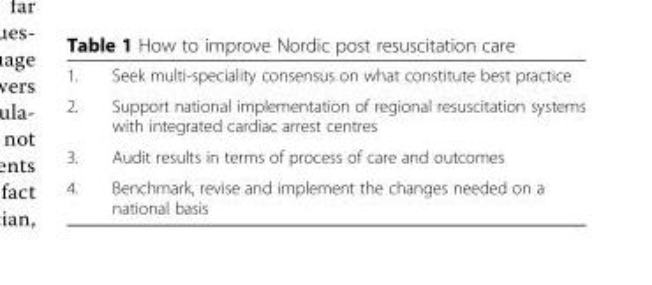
<table><tbody><tr><td>1.</td><td>Seek multi-speciality consensus on what constitute best practice</td></tr><tr><td>2.</td><td>Support national implementation of regional resuscitation systems with integrated cardiac arrest centres</td></tr><tr><td>3.</td><td>Audit results in terms of process of care and outcomes</td></tr><tr><td>4.</td><td>Benchmark, revise and implement the changes needed on a national basis</td></tr></tbody></table>